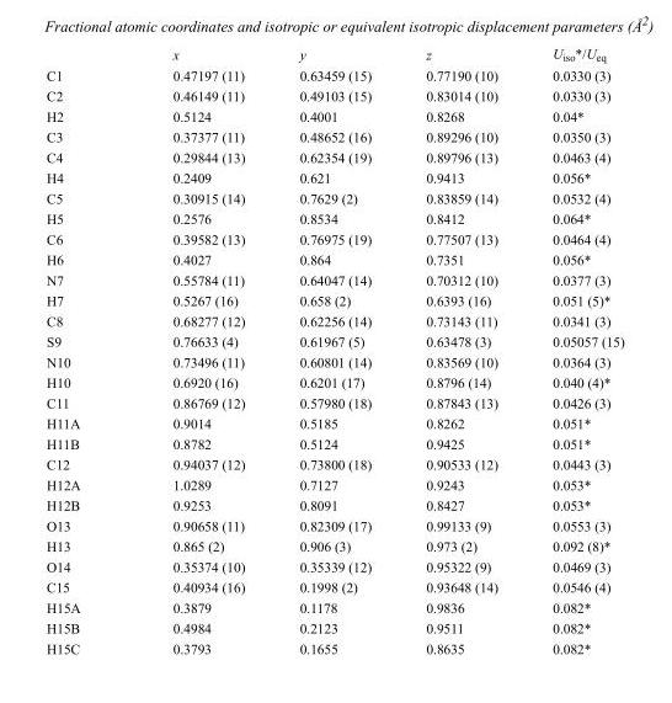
<table><thead><tr><td></td><td>x</td><td>y</td><td>z</td><td>U<sub>iso</sub>*/U<sub>eq</sub></td></tr></thead><tbody><tr><td>C1</td><td>0.47197 (11)</td><td>0.63459 (15)</td><td>0.77190 (10)</td><td>0.0330 (3)</td></tr><tr><td>C2</td><td>0.46149 (11)</td><td>0.49103 (15)</td><td>0.83014 (10)</td><td>0.0330 (3)</td></tr><tr><td>H2</td><td>0.5124</td><td>0.4001</td><td>0.8268</td><td>0.04*</td></tr><tr><td>C3</td><td>0.37377 (11)</td><td>0.48652 (16)</td><td>0.89296 (10)</td><td>0.0350 (3)</td></tr><tr><td>C4</td><td>0.29844 (13)</td><td>0.62354 (19)</td><td>0.89796 (13)</td><td>0.0463 (4)</td></tr><tr><td>H4</td><td>0.2409</td><td>0.621</td><td>0.9413</td><td>0.056*</td></tr><tr><td>C5</td><td>0.30915 (14)</td><td>0.7629 (2)</td><td>0.83859 (14)</td><td>0.0532 (4)</td></tr><tr><td>H5</td><td>0.2576</td><td>0.8534</td><td>0.8412</td><td>0.064*</td></tr><tr><td>C6</td><td>0.39582 (13)</td><td>0.76975 (19)</td><td>0.77507 (13)</td><td>0.0464 (4)</td></tr><tr><td>H6</td><td>0.4027</td><td>0.864</td><td>0.7351</td><td>0.056*</td></tr><tr><td>N7</td><td>0.55784 (11)</td><td>0.64047 (14)</td><td>0.70312 (10)</td><td>0.0377 (3)</td></tr><tr><td>H7</td><td>0.5267 (16)</td><td>0.658 (2)</td><td>0.6393 (16)</td><td>0.051 (5)*</td></tr><tr><td>C8</td><td>0.68277 (12)</td><td>0.62256 (14)</td><td>0.73143 (11)</td><td>0.0341 (3)</td></tr><tr><td>S9</td><td>0.76633 (4)</td><td>0.61967 (5)</td><td>0.63478 (3)</td><td>0.05057 (15)</td></tr><tr><td>N10</td><td>0.73496 (11)</td><td>0.60801 (14)</td><td>0.83569 (10)</td><td>0.0364 (3)</td></tr><tr><td>H10</td><td>0.6920 (16)</td><td>0.6201 (17)</td><td>0.8796 (14)</td><td>0.040 (4)*</td></tr><tr><td>C11</td><td>0.86769 (12)</td><td>0.57980 (18)</td><td>0.87843 (13)</td><td>0.0426 (3)</td></tr><tr><td>H11A</td><td>0.9014</td><td>0.5185</td><td>0.8262</td><td>0.051*</td></tr><tr><td>H11B</td><td>0.8782</td><td>0.5124</td><td>0.9425</td><td>0.051*</td></tr><tr><td>C12</td><td>0.94037 (12)</td><td>0.73800 (18)</td><td>0.90533 (12)</td><td>0.0443 (3)</td></tr><tr><td>H12A</td><td>1.0289</td><td>0.7127</td><td>0.9243</td><td>0.053*</td></tr><tr><td>H12B</td><td>0.9253</td><td>0.8091</td><td>0.8427</td><td>0.053*</td></tr><tr><td>O13</td><td>0.90658 (11)</td><td>0.82309 (17)</td><td>0.99133 (9)</td><td>0.0553 (3)</td></tr><tr><td>H13</td><td>0.865 (2)</td><td>0.906 (3)</td><td>0.973 (2)</td><td>0.092 (8)*</td></tr><tr><td>O14</td><td>0.35374 (10)</td><td>0.35339 (12)</td><td>0.95322 (9)</td><td>0.0469 (3)</td></tr><tr><td>C15</td><td>0.40934 (16)</td><td>0.1998 (2)</td><td>0.93648 (14)</td><td>0.0546 (4)</td></tr><tr><td>H15A</td><td>0.3879</td><td>0.1178</td><td>0.9836</td><td>0.082*</td></tr><tr><td>H15B</td><td>0.4984</td><td>0.2123</td><td>0.9511</td><td>0.082*</td></tr><tr><td>H15C</td><td>0.3793</td><td>0.1655</td><td>0.8635</td><td>0.082*</td></tr></tbody></table>